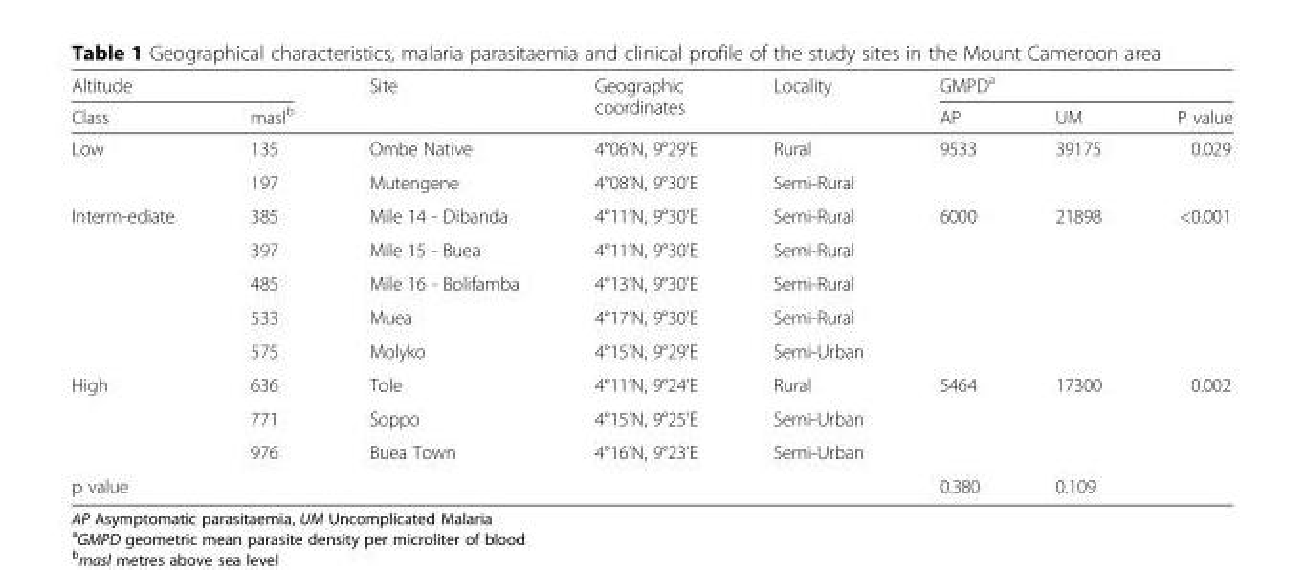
<table><thead><tr><td colspan="2">Altitude</td><td rowspan="2">Site</td><td rowspan="2">Geographic coordinates</td><td rowspan="2">Locality</td><td colspan="3">GMPD<sup>a</sup></td></tr><tr><td>Class</td><td>masl<sup>b</sup></td><td>AP</td><td>UM</td><td>P value</td></tr></thead><tbody><tr><td rowspan="2">Low</td><td>135</td><td>Ombe Native</td><td>4°06’N, 9°29’E</td><td>Rural</td><td rowspan="2">9533</td><td rowspan="2">39175</td><td rowspan="2">0.029</td></tr><tr><td>197</td><td>Mutengene</td><td>4°08’N, 9°30’E</td><td>Semi-Rural</td></tr><tr><td rowspan="5">Interm-ediate</td><td>385</td><td>Mile 14 - Dibanda</td><td>4°11’N, 9°30’E</td><td>Semi-Rural</td><td rowspan="5">6000</td><td rowspan="5">21898</td><td rowspan="5">&lt;0.001</td></tr><tr><td>397</td><td>Mile 15 - Buea</td><td>4°11’N, 9°30’E</td><td>Semi-Rural</td></tr><tr><td>485</td><td>Mile 16 - Bolifamba</td><td>4°13’N, 9°30’E</td><td>Semi-Rural</td></tr><tr><td>533</td><td>Muea</td><td>4°17’N, 9°30’E</td><td>Semi-Rural</td></tr><tr><td>575</td><td>Molyko</td><td>4°15’N, 9°29’E</td><td>Semi-Urban</td></tr><tr><td rowspan="3">High</td><td>636</td><td>Tole</td><td>4°11’N, 9°24’E</td><td>Rural</td><td rowspan="3">5464</td><td rowspan="3">17300</td><td rowspan="3">0.002</td></tr><tr><td>771</td><td>Soppo</td><td>4°15’N, 9°25’E</td><td>Semi-Urban</td></tr><tr><td>976</td><td>Buea Town</td><td>4°16’N, 9°23’E</td><td>Semi-Urban</td></tr><tr><td>p value</td><td></td><td></td><td></td><td></td><td>0.380</td><td>0.109</td><td></td></tr></tbody></table>